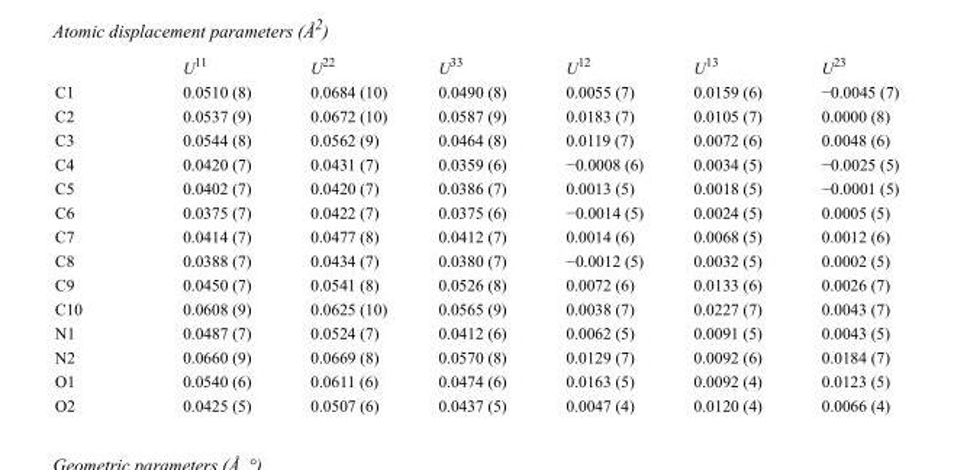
<table><thead><tr><td></td><td>U<sup>11</sup></td><td>U<sup>22</sup></td><td>U<sup>33</sup></td><td>U<sup>12</sup></td><td>U<sup>13</sup></td><td>U<sup>23</sup></td></tr></thead><tbody><tr><td>C1</td><td>0.0510 (8)</td><td>0.0684 (10)</td><td>0.0490 (8)</td><td>0.0055 (7)</td><td>0.0159 (6)</td><td>−0.0045 (7)</td></tr><tr><td>C2</td><td>0.0537 (9)</td><td>0.0672 (10)</td><td>0.0587 (9)</td><td>0.0183 (7)</td><td>0.0105 (7)</td><td>0.0000 (8)</td></tr><tr><td>C3</td><td>0.0544 (8)</td><td>0.0562 (9)</td><td>0.0464 (8)</td><td>0.0119 (7)</td><td>0.0072 (6)</td><td>0.0048 (6)</td></tr><tr><td>C4</td><td>0.0420 (7)</td><td>0.0431 (7)</td><td>0.0359 (6)</td><td>−0.0008 (6)</td><td>0.0034 (5)</td><td>−0.0025 (5)</td></tr><tr><td>C5</td><td>0.0402 (7)</td><td>0.0420 (7)</td><td>0.0386 (7)</td><td>0.0013 (5)</td><td>0.0018 (5)</td><td>−0.0001 (5)</td></tr><tr><td>C6</td><td>0.0375 (7)</td><td>0.0422 (7)</td><td>0.0375 (6)</td><td>−0.0014 (5)</td><td>0.0024 (5)</td><td>0.0005 (5)</td></tr><tr><td>C7</td><td>0.0414 (7)</td><td>0.0477 (8)</td><td>0.0412 (7)</td><td>0.0014 (6)</td><td>0.0068 (5)</td><td>0.0012 (6)</td></tr><tr><td>C8</td><td>0.0388 (7)</td><td>0.0434 (7)</td><td>0.0380 (7)</td><td>−0.0012 (5)</td><td>0.0032 (5)</td><td>0.0002 (5)</td></tr><tr><td>C9</td><td>0.0450 (7)</td><td>0.0541 (8)</td><td>0.0526 (8)</td><td>0.0072 (6)</td><td>0.0133 (6)</td><td>0.0026 (7)</td></tr><tr><td>C10</td><td>0.0608 (9)</td><td>0.0625 (10)</td><td>0.0565 (9)</td><td>0.0038 (7)</td><td>0.0227 (7)</td><td>0.0043 (7)</td></tr><tr><td>N1</td><td>0.0487 (7)</td><td>0.0524 (7)</td><td>0.0412 (6)</td><td>0.0062 (5)</td><td>0.0091 (5)</td><td>0.0043 (5)</td></tr><tr><td>N2</td><td>0.0660 (9)</td><td>0.0669 (8)</td><td>0.0570 (8)</td><td>0.0129 (7)</td><td>0.0092 (6)</td><td>0.0184 (7)</td></tr><tr><td>O1</td><td>0.0540 (6)</td><td>0.0611 (6)</td><td>0.0474 (6)</td><td>0.0163 (5)</td><td>0.0092 (4)</td><td>0.0123 (5)</td></tr><tr><td>O2</td><td>0.0425 (5)</td><td>0.0507 (6)</td><td>0.0437 (5)</td><td>0.0047 (4)</td><td>0.0120 (4)</td><td>0.0066 (4)</td></tr></tbody></table>